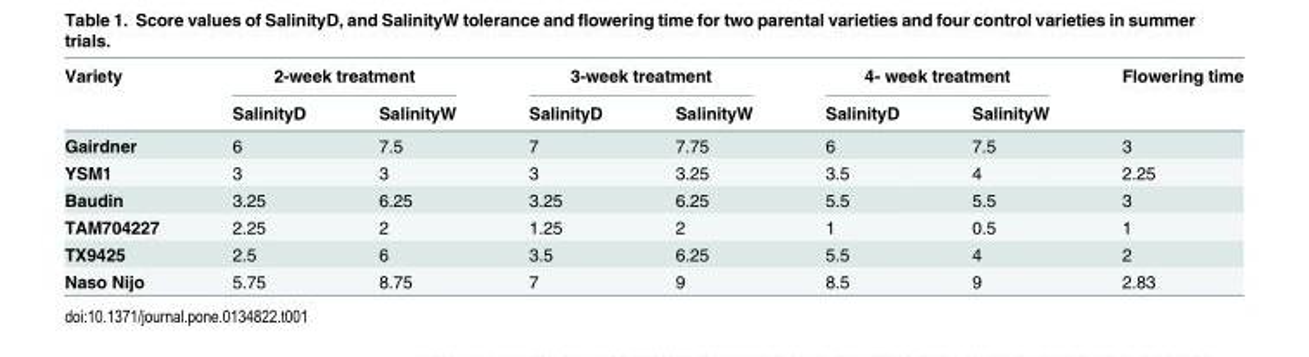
<table><thead><tr><td rowspan="2">Variety</td><td colspan="2">2-week treatment</td><td colspan="2">3-week treatment</td><td colspan="2">4- week treatment</td><td rowspan="2">Flowering time</td></tr><tr><td>SalinityD</td><td>SalinityW</td><td>SalinityD</td><td>SalinityW</td><td>SalinityD</td><td>SalinityW</td></tr></thead><tbody><tr><td>Gairdner</td><td>6</td><td>7.5</td><td>7</td><td>7.75</td><td>6</td><td>7.5</td><td>3</td></tr><tr><td>YSM1</td><td>3</td><td>3</td><td>3</td><td>3.25</td><td>3.5</td><td>4</td><td>2.25</td></tr><tr><td>Baudin</td><td>3.25</td><td>6.25</td><td>3.25</td><td>6.25</td><td>5.5</td><td>5.5</td><td>3</td></tr><tr><td>TAM704227</td><td>2.25</td><td>2</td><td>1.25</td><td>2</td><td>1</td><td>0.5</td><td>1</td></tr><tr><td>TX9425</td><td>2.5</td><td>6</td><td>3.5</td><td>6.25</td><td>5.5</td><td>4</td><td>2</td></tr><tr><td>Naso Nijo</td><td>5.75</td><td>8.75</td><td>7</td><td>9</td><td>8.5</td><td>9</td><td>2.83</td></tr></tbody></table>